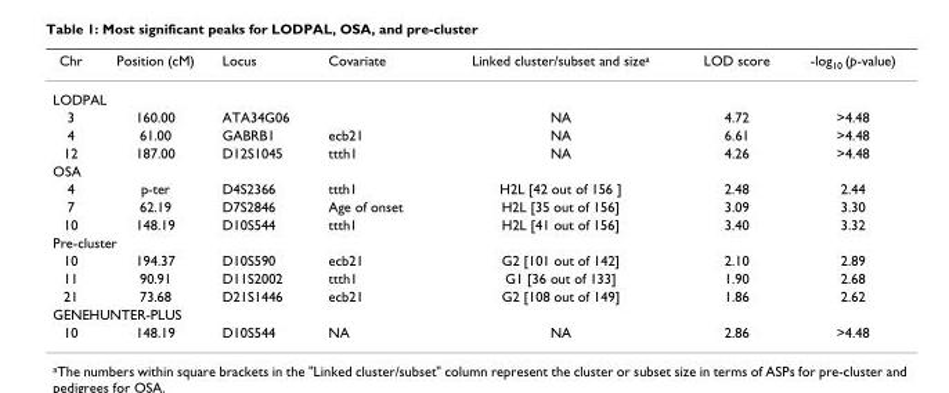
<table><thead><tr><td>Chr</td><td>Position (cM)</td><td>Locus</td><td>Covariate</td><td>Linked cluster/subset and sizea</td><td>LOD score</td><td>-log10 (p-value)</td></tr></thead><tbody><tr><td colspan="7">LODPAL</td></tr><tr><td>3</td><td>160.00</td><td>ATA34G06</td><td></td><td>NA</td><td>4.72</td><td>&gt;4.48</td></tr><tr><td>4</td><td>61.00</td><td>GABRB1</td><td>ecb21</td><td>NA</td><td>6.61</td><td>&gt;4.48</td></tr><tr><td>12</td><td>187.00</td><td>D12S1045</td><td>ttth1</td><td>NA</td><td>4.26</td><td>&gt;4.48</td></tr><tr><td colspan="7">OSA</td></tr><tr><td>4</td><td>p-ter</td><td>D4S2366</td><td>ttth1</td><td>H2L [42 out of 156 ]</td><td>2.48</td><td>2.44</td></tr><tr><td>7</td><td>62.19</td><td>D7S2846</td><td>Age of onset</td><td>H2L [35 out of 156]</td><td>3.09</td><td>3.30</td></tr><tr><td>10</td><td>148.19</td><td>D10S544</td><td>ttth1</td><td>H2L [41 out of 156]</td><td>3.40</td><td>3.32</td></tr><tr><td colspan="7">Pre-cluster</td></tr><tr><td>10</td><td>194.37</td><td>D10S590</td><td>ecb21</td><td>G2 [101 out of 142]</td><td>2.10</td><td>2.89</td></tr><tr><td>11</td><td>90.91</td><td>D11S2002</td><td>ttth1</td><td>G1 [36 out of 133]</td><td>1.90</td><td>2.68</td></tr><tr><td>21</td><td>73.68</td><td>D21S1446</td><td>ecb21</td><td>G2 [108 out of 149]</td><td>1.86</td><td>2.62</td></tr><tr><td colspan="7">GENEHUNTER-PLUS</td></tr><tr><td>10</td><td>148.19</td><td>D10S544</td><td>NA</td><td>NA</td><td>2.86</td><td>&gt;4.48</td></tr></tbody></table>